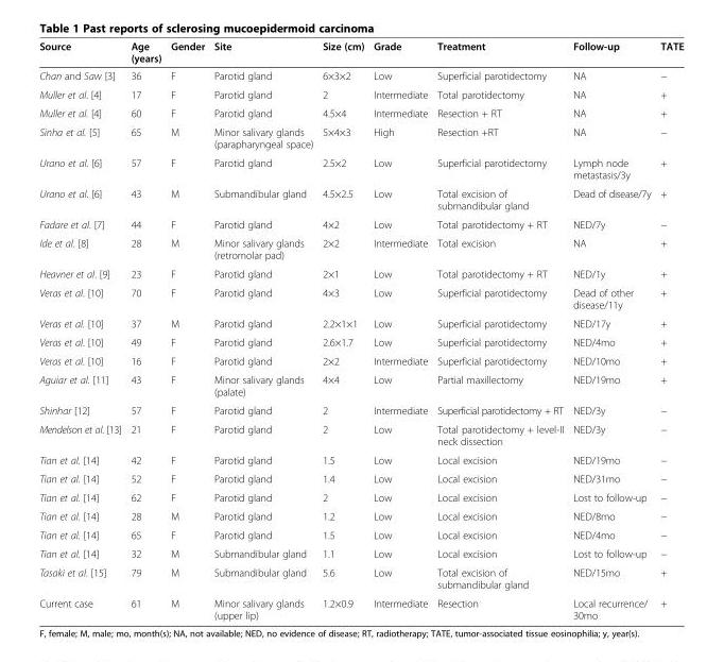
<table><thead><tr><td>Source</td><td>Age (years)</td><td>Gender</td><td>Site</td><td>Size (cm)</td><td>Grade</td><td>Treatment</td><td>Follow-up</td><td>TATE</td></tr></thead><tbody><tr><td>Chan and Saw [3]</td><td>36</td><td>F</td><td>Parotid gland</td><td>6×3×2</td><td>Low</td><td>Superficial parotidectomy</td><td>NA</td><td>−</td></tr><tr><td>Muller et al. [4]</td><td>17</td><td>F</td><td>Parotid gland</td><td>2</td><td>Intermediate</td><td>Total parotidectomy</td><td>NA</td><td>+</td></tr><tr><td>Muller et al. [4]</td><td>60</td><td>F</td><td>Parotid gland</td><td>4.5×4</td><td>Intermediate</td><td>Resection + RT</td><td>NA</td><td>+</td></tr><tr><td>Sinha et al. [5]</td><td>65</td><td>M</td><td>Minor salivary glands (parapharyngeal space)</td><td>5×4×3</td><td>High</td><td>Resection +RT</td><td>NA</td><td>−</td></tr><tr><td>Urano et al. [6]</td><td>57</td><td>F</td><td>Parotid gland</td><td>2.5×2</td><td>Low</td><td>Superficial parotidectomy</td><td>Lymph node metastasis/3y</td><td>+</td></tr><tr><td>Urano et al. [6]</td><td>43</td><td>M</td><td>Submandibular gland</td><td>4.5×2.5</td><td>Low</td><td>Total excision of submandibular gland</td><td>Dead of disease/7y</td><td>+</td></tr><tr><td>Fadare et al. [7]</td><td>44</td><td>F</td><td>Parotid gland</td><td>4×2</td><td>Low</td><td>Total parotidectomy + RT</td><td>NED/7y</td><td>−</td></tr><tr><td>Ide et al. [8]</td><td>28</td><td>M</td><td>Minor salivary glands (retromolar pad)</td><td>2×2</td><td>Intermediate</td><td>Total excision</td><td>NA</td><td>+</td></tr><tr><td>Heavner et al. [9]</td><td>23</td><td>F</td><td>Parotid gland</td><td>2×1</td><td>Low</td><td>Total parotidectomy + RT</td><td>NED/1y</td><td>+</td></tr><tr><td>Veras et al. [10]</td><td>70</td><td>F</td><td>Parotid gland</td><td>4×3</td><td>Low</td><td>Superficial parotidectomy</td><td>Dead of other disease/11y</td><td>+</td></tr><tr><td>Veras et al. [10]</td><td>37</td><td>M</td><td>Parotid gland</td><td>2.2×1×1</td><td>Low</td><td>Superficial parotidectomy</td><td>NED/17y</td><td>+</td></tr><tr><td>Veras et al. [10]</td><td>49</td><td>F</td><td>Parotid gland</td><td>2.6×1.7</td><td>Low</td><td>Superficial parotidectomy</td><td>NED/4mo</td><td>+</td></tr><tr><td>Veras et al. [10]</td><td>16</td><td>F</td><td>Parotid gland</td><td>2×2</td><td>Intermediate</td><td>Superficial parotidectomy</td><td>NED/10mo</td><td>+</td></tr><tr><td>Aguiar et al. [11]</td><td>43</td><td>F</td><td>Minor salivary glands (palate)</td><td>4×4</td><td>Low</td><td>Partial maxillectomy</td><td>NED/19mo</td><td>+</td></tr><tr><td>Shinhar [12]</td><td>57</td><td>F</td><td>Parotid gland</td><td>2</td><td>Intermediate</td><td>Superficial parotidectomy + RT</td><td>NED/3y</td><td>−</td></tr><tr><td>Mendelson et al. [13]</td><td>21</td><td>F</td><td>Parotid gland</td><td>2</td><td>Low</td><td>Total parotidectomy + level-II neck dissection</td><td>NED/3y</td><td>−</td></tr><tr><td>Tian et al. [14]</td><td>42</td><td>F</td><td>Parotid gland</td><td>1.5</td><td>Low</td><td>Local excision</td><td>NED/19mo</td><td>−</td></tr><tr><td>Tian et al. [14]</td><td>52</td><td>F</td><td>Parotid gland</td><td>1.4</td><td>Low</td><td>Local excision</td><td>NED/31mo</td><td>−</td></tr><tr><td>Tian et al. [14]</td><td>62</td><td>F</td><td>Parotid gland</td><td>2</td><td>Low</td><td>Local excision</td><td>Lost to follow-up</td><td>−</td></tr><tr><td>Tian et al. [14]</td><td>28</td><td>M</td><td>Parotid gland</td><td>1.2</td><td>Low</td><td>Local excision</td><td>NED/8mo</td><td>−</td></tr><tr><td>Tian et al. [14]</td><td>65</td><td>F</td><td>Parotid gland</td><td>1.5</td><td>Low</td><td>Local excision</td><td>NED/4mo</td><td>−</td></tr><tr><td>Tian et al. [14]</td><td>32</td><td>M</td><td>Submandibular gland</td><td>1.1</td><td>Low</td><td>Local excision</td><td>Lost to follow-up</td><td>−</td></tr><tr><td>Tasaki et al. [15]</td><td>79</td><td>M</td><td>Submandibular gland</td><td>5.6</td><td>Low</td><td>Total excision of submandibular gland</td><td>NED/15mo</td><td>+</td></tr><tr><td>Current case</td><td>61</td><td>M</td><td>Minor salivary glands (upper lip)</td><td>1.2×0.9</td><td>Intermediate</td><td>Resection</td><td>Local recurrence/ 30mo</td><td>+</td></tr></tbody></table>